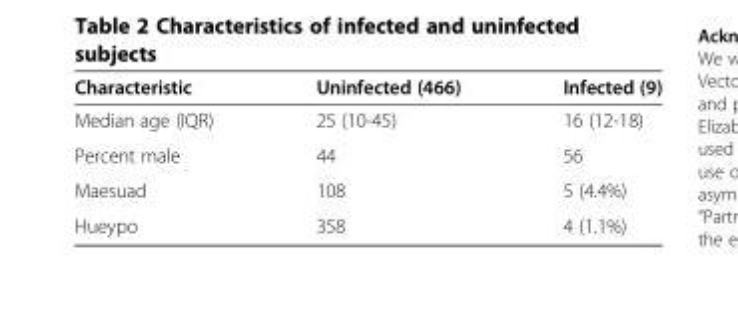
<table><thead><tr><td>Characteristic</td><td>Uninfected (466)</td><td>Infected (9)</td></tr></thead><tbody><tr><td>Median age (IQR)</td><td>25 (10-45)</td><td>16 (12-18)</td></tr><tr><td>Percent male</td><td>44</td><td>56</td></tr><tr><td>Maesuad</td><td>108</td><td>5 (4.4%)</td></tr><tr><td>Hueypo</td><td>358</td><td>4 (1.1%)</td></tr></tbody></table>